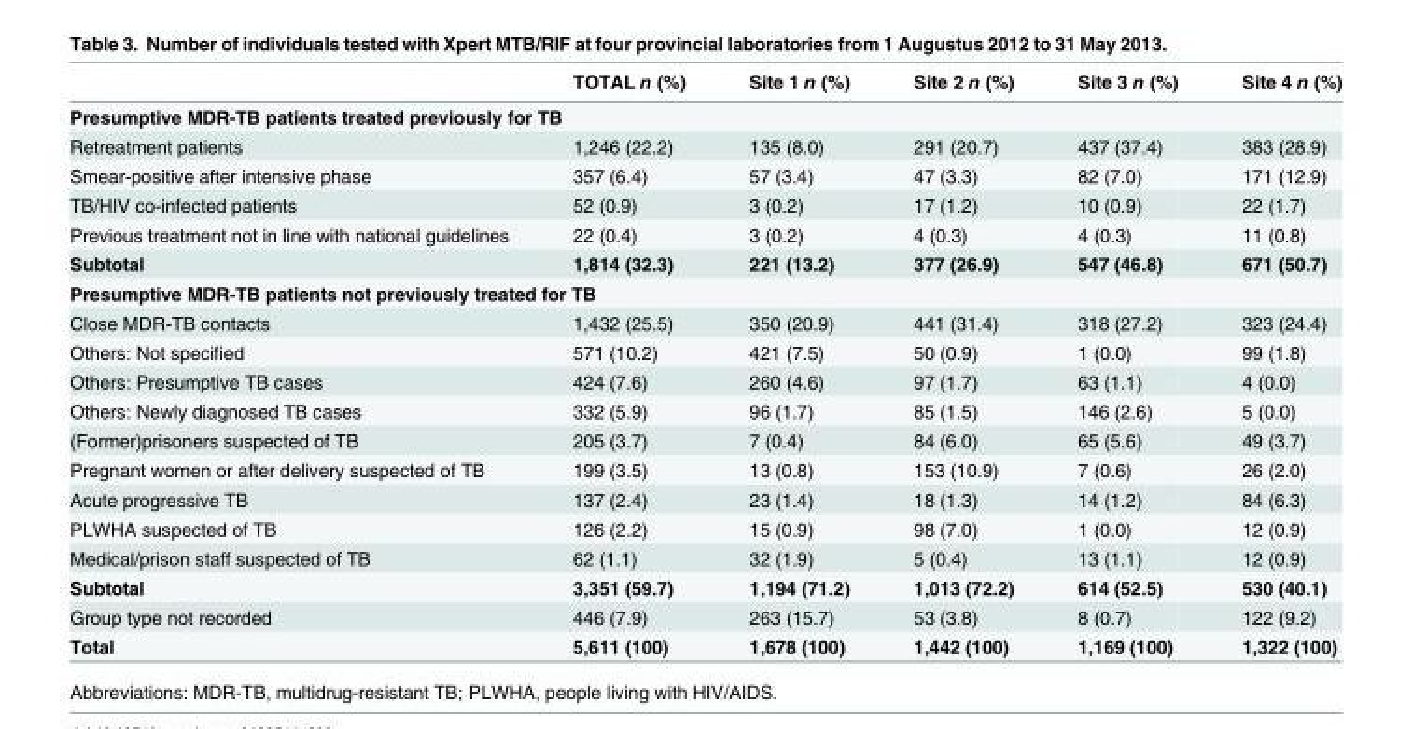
<table><thead><tr><td></td><td>TOTAL n (%)</td><td>Site 1 n (%)</td><td>Site 2 n (%)</td><td>Site 3 n (%)</td><td>Site 4 n (%)</td></tr></thead><tbody><tr><td colspan="6">Presumptive MDR-TB patients treated previously for TB</td></tr><tr><td>Retreatment patients</td><td>1,246 (22.2)</td><td>135 (8.0)</td><td>291 (20.7)</td><td>437 (37.4)</td><td>383 (28.9)</td></tr><tr><td>Smear-positive after intensive phase</td><td>357 (6.4)</td><td>57 (3.4)</td><td>47 (3.3)</td><td>82 (7.0)</td><td>171 (12.9)</td></tr><tr><td>TB/HIV co-infected patients</td><td>52 (0.9)</td><td>3 (0.2)</td><td>17 (1.2)</td><td>10 (0.9)</td><td>22 (1.7)</td></tr><tr><td>Previous treatment not in line with national guidelines</td><td>22 (0.4)</td><td>3 (0.2)</td><td>4 (0.3)</td><td>4 (0.3)</td><td>11 (0.8)</td></tr><tr><td>Subtotal</td><td>1,814 (32.3)</td><td>221 (13.2)</td><td>377 (26.9)</td><td>547 (46.8)</td><td>671 (50.7)</td></tr><tr><td colspan="6">Presumptive MDR-TB patients not previously treated for TB</td></tr><tr><td>Close MDR-TB contacts</td><td>1,432 (25.5)</td><td>350 (20.9)</td><td>441 (31.4)</td><td>318 (27.2)</td><td>323 (24.4)</td></tr><tr><td>Others: Not specified</td><td>571 (10.2)</td><td>421 (7.5)</td><td>50 (0.9)</td><td>1 (0.0)</td><td>99 (1.8)</td></tr><tr><td>Others: Presumptive TB cases</td><td>424 (7.6)</td><td>260 (4.6)</td><td>97 (1.7)</td><td>63 (1.1)</td><td>4 (0.0)</td></tr><tr><td>Others: Newly diagnosed TB cases</td><td>332 (5.9)</td><td>96 (1.7)</td><td>85 (1.5)</td><td>146 (2.6)</td><td>5 (0.0)</td></tr><tr><td>(Former)prisoners suspected of TB</td><td>205 (3.7)</td><td>7 (0.4)</td><td>84 (6.0)</td><td>65 (5.6)</td><td>49 (3.7)</td></tr><tr><td>Pregnant women or after delivery suspected of TB</td><td>199 (3.5)</td><td>13 (0.8)</td><td>153 (10.9)</td><td>7 (0.6)</td><td>26 (2.0)</td></tr><tr><td>Acute progressive TB</td><td>137 (2.4)</td><td>23 (1.4)</td><td>18 (1.3)</td><td>14 (1.2)</td><td>84 (6.3)</td></tr><tr><td>PLWHA suspected of TB</td><td>126 (2.2)</td><td>15 (0.9)</td><td>98 (7.0)</td><td>1 (0.0)</td><td>12 (0.9)</td></tr><tr><td>Medical/prison staff suspected of TB</td><td>62 (1.1)</td><td>32 (1.9)</td><td>5 (0.4)</td><td>13 (1.1)</td><td>12 (0.9)</td></tr><tr><td>Subtotal</td><td>3,351 (59.7)</td><td>1,194 (71.2)</td><td>1,013 (72.2)</td><td>614 (52.5)</td><td>530 (40.1)</td></tr><tr><td>Group type not recorded</td><td>446 (7.9)</td><td>263 (15.7)</td><td>53 (3.8)</td><td>8 (0.7)</td><td>122 (9.2)</td></tr><tr><td>Total</td><td>5,611 (100)</td><td>1,678 (100)</td><td>1,442 (100)</td><td>1,169 (100)</td><td>1,322 (100)</td></tr></tbody></table>